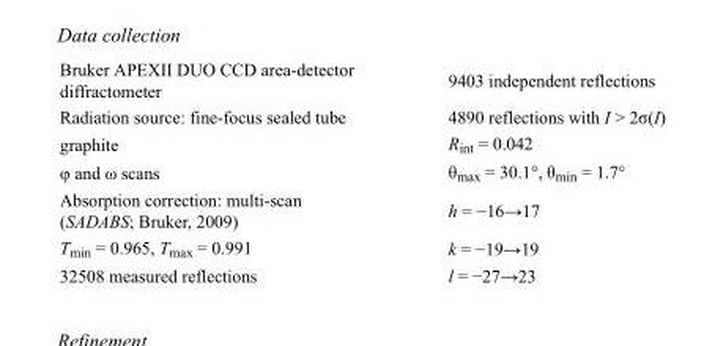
<table><tbody><tr><td>Bruker APEXII DUO CCD area-detector diffractometer</td><td>9403 independent reflections</td></tr><tr><td>Radiation source: fine-focus sealed tube</td><td>4890 reflections with I &gt; 2σ(I)</td></tr><tr><td>graphite</td><td>R<sub>int</sub> = 0.042</td></tr><tr><td>φ and ω scans</td><td>θ<sub>max</sub> = 30.1°, θ<sub>min</sub> = 1.7°</td></tr><tr><td>Absorption correction: multi-scan (SADABS; Bruker, 2009)</td><td>h = −16→17</td></tr><tr><td>T<sub>min</sub> = 0.965, T<sub>max</sub> = 0.991</td><td>k = −19→19</td></tr><tr><td>32508 measured reflections</td><td>l = −27→23</td></tr></tbody></table>